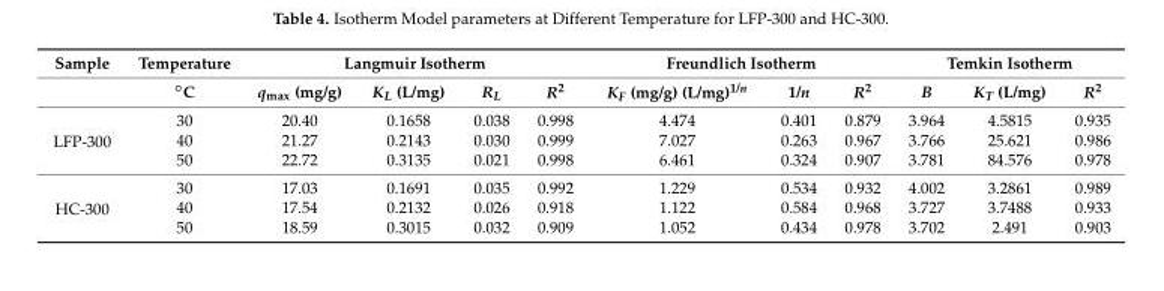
<table><thead><tr><td rowspan="2">Sample</td><td rowspan="2">Temperature ◦C</td><td colspan="4">Langmuir Isotherm</td><td colspan="3">Freundlich Isotherm</td><td colspan="3">Temkin Isotherm</td></tr><tr><td>q<sub>max</sub> (mg/g)</td><td>K<sub>L</sub> (L/mg)</td><td>R<sub>L</sub></td><td>R<sup>2</sup></td><td>K<sub>F</sub> (mg/g) (L/mg)<sup>1/n</sup></td><td>1/n</td><td>R<sup>2</sup></td><td>B</td><td>K<sub>T</sub> (L/mg)</td><td>R<sup>2</sup></td></tr></thead><tbody><tr><td rowspan="3">LFP-300</td><td>30</td><td>20.40</td><td>0.1658</td><td>0.038</td><td>0.998</td><td>4.474</td><td>0.401</td><td>0.879</td><td>3.964</td><td>4.5815</td><td>0.935</td></tr><tr><td>40</td><td>21.27</td><td>0.2143</td><td>0.030</td><td>0.999</td><td>7.027</td><td>0.263</td><td>0.967</td><td>3.766</td><td>25.621</td><td>0.986</td></tr><tr><td>50</td><td>22.72</td><td>0.3135</td><td>0.021</td><td>0.998</td><td>6.461</td><td>0.324</td><td>0.907</td><td>3.781</td><td>84.576</td><td>0.978</td></tr><tr><td rowspan="3">HC-300</td><td>30</td><td>17.03</td><td>0.1691</td><td>0.035</td><td>0.992</td><td>1.229</td><td>0.534</td><td>0.932</td><td>4.002</td><td>3.2861</td><td>0.989</td></tr><tr><td>40</td><td>17.54</td><td>0.2132</td><td>0.026</td><td>0.918</td><td>1.122</td><td>0.584</td><td>0.968</td><td>3.727</td><td>3.7488</td><td>0.933</td></tr><tr><td>50</td><td>18.59</td><td>0.3015</td><td>0.032</td><td>0.909</td><td>1.052</td><td>0.434</td><td>0.978</td><td>3.702</td><td>2.491</td><td>0.903</td></tr></tbody></table>